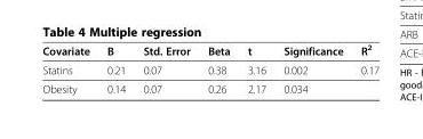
<table><thead><tr><td>Covariate</td><td>B</td><td>Std. Error</td><td>Beta</td><td>t</td><td>Significance</td><td>R<sup>2</sup></td></tr></thead><tbody><tr><td>Statins</td><td>0.21</td><td>0.07</td><td>0.38</td><td>3.16</td><td>0.002</td><td>0.17</td></tr><tr><td>Obesity</td><td>0.14</td><td>0.07</td><td>0.26</td><td>2.17</td><td>0.034</td><td></td></tr></tbody></table>